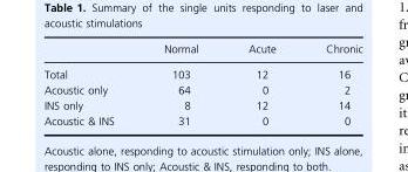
<table><thead><tr><td></td><td>Normal</td><td>Acute</td><td>Chronic</td></tr></thead><tbody><tr><td>Total</td><td>103</td><td>12</td><td>16</td></tr><tr><td>Acoustic only</td><td>64</td><td>0</td><td>2</td></tr><tr><td>INS only</td><td>8</td><td>12</td><td>14</td></tr><tr><td>Acoustic &amp; INS</td><td>31</td><td>0</td><td>0</td></tr></tbody></table>